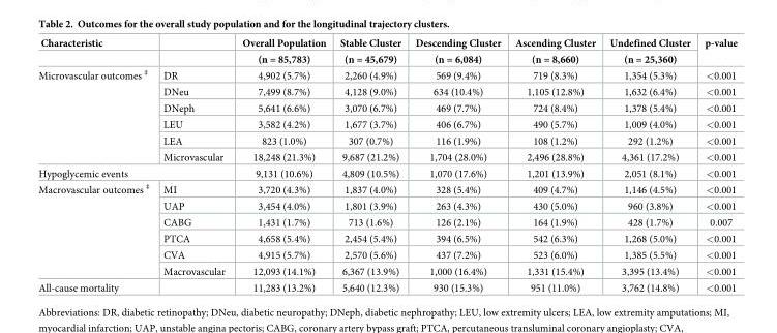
<table><thead><tr><td rowspan="2">Characteristic</td><td rowspan="2"></td><td rowspan="2">Overall Population (n = 85,783)</td><td rowspan="2">Stable Cluster (n = 45,679)</td><td rowspan="2">Descending Cluster (n = 6,084)</td><td rowspan="2">Ascending Cluster (n = 8,660)</td><td rowspan="2">Undefined Cluster (n = 25,360)</td><td rowspan="2">p-value</td></tr><tr></tr></thead><tbody><tr><td rowspan="6">Microvascular outcomes <sup>‡</sup></td><td>DR</td><td>4,902 (5.7%)</td><td>2,260 (4.9%)</td><td>569 (9.4%)</td><td>719 (8.3%)</td><td>1,354 (5.3%)</td><td>&lt;0.001</td></tr><tr><td>DNeu</td><td>7,499 (8.7%)</td><td>4,128 (9.0%)</td><td>634 (10.4%)</td><td>1,105 (12.8%)</td><td>1,632 (6.4%)</td><td>&lt;0.001</td></tr><tr><td>DNeph</td><td>5,641 (6.6%)</td><td>3,070 (6.7%)</td><td>469 (7.7%)</td><td>724 (8.4%)</td><td>1,378 (5.4%)</td><td>&lt;0.001</td></tr><tr><td>LEU</td><td>3,582 (4.2%)</td><td>1,677 (3.7%)</td><td>406 (6.7%)</td><td>490 (5.7%)</td><td>1,009 (4.0%)</td><td>&lt;0.001</td></tr><tr><td>LEA</td><td>823 (1.0%)</td><td>307 (0.7%)</td><td>116 (1.9%)</td><td>108 (1.2%)</td><td>292 (1.2%)</td><td>&lt;0.001</td></tr><tr><td>Microvascular</td><td>18,248 (21.3%)</td><td>9,687 (21.2%)</td><td>1,704 (28.0%)</td><td>2,496 (28.8%)</td><td>4,361 (17.2%)</td><td>&lt;0.001</td></tr><tr><td colspan="2">Hypoglycemic events</td><td>9,131 (10.6%)</td><td>4,809 (10.5%)</td><td>1,070 (17.6%)</td><td>1,201 (13.9%)</td><td>2,051 (8.1%)</td><td>&lt;0.001</td></tr><tr><td rowspan="6">Macrovascular outcomes <sup>‡</sup></td><td>MI</td><td>3,720 (4.3%)</td><td>1,837 (4.0%)</td><td>328 (5.4%)</td><td>409 (4.7%)</td><td>1,146 (4.5%)</td><td>&lt;0.001</td></tr><tr><td>UAP</td><td>3,454 (4.0%)</td><td>1,801 (3.9%)</td><td>263 (4.3%)</td><td>430 (5.0%)</td><td>960 (3.8%)</td><td>&lt;0.001</td></tr><tr><td>CABG</td><td>1,431 (1.7%)</td><td>713 (1.6%)</td><td>126 (2.1%)</td><td>164 (1.9%)</td><td>428 (1.7%)</td><td>0.007</td></tr><tr><td>PTCA</td><td>4,658 (5.4%)</td><td>2,454 (5.4%)</td><td>394 (6.5%)</td><td>542 (6.3%)</td><td>1,268 (5.0%)</td><td>&lt;0.001</td></tr><tr><td>CVA</td><td>4,915 (5.7%)</td><td>2,570 (5.6%)</td><td>437 (7.2%)</td><td>523 (6.0%)</td><td>1,385 (5.5%)</td><td>&lt;0.001</td></tr><tr><td>Macrovascular</td><td>12,093 (14.1%)</td><td>6,367 (13.9%)</td><td>1,000 (16.4%)</td><td>1,331 (15.4%)</td><td>3,395 (13.4%)</td><td>&lt;0.001</td></tr><tr><td>All-cause mortality</td><td></td><td>11,283 (13.2%)</td><td>5,640 (12.3%)</td><td>930 (15.3%)</td><td>951 (11.0%)</td><td>3,762 (14.8%)</td><td>&lt;0.001</td></tr></tbody></table>